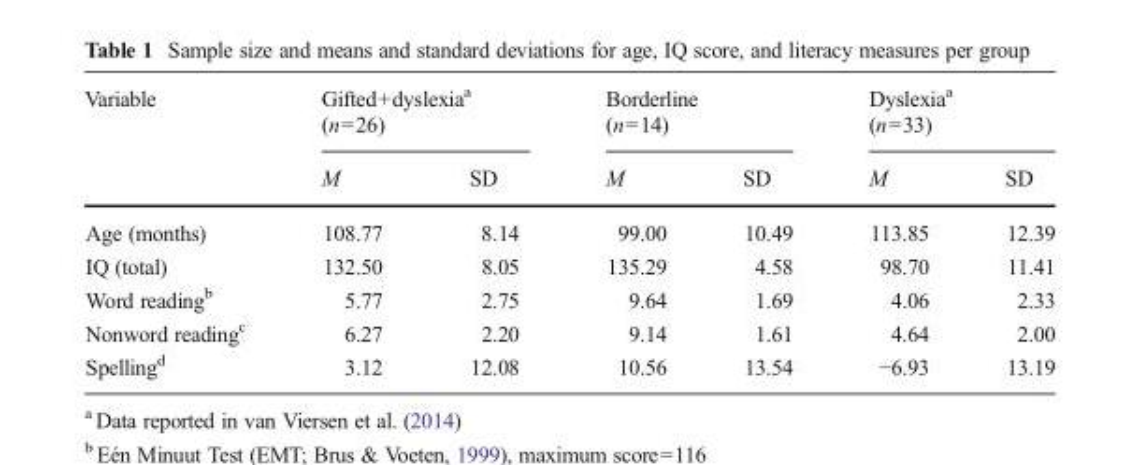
<table><thead><tr><td rowspan="2">Variable</td><td colspan="2">Gifted+dyslexia<sup>a</sup> (n=26)</td><td colspan="2">Borderline (n=14)</td><td colspan="2">Dyslexia<sup>a</sup> (n=33)</td></tr><tr><td>M</td><td>SD</td><td>M</td><td>SD</td><td>M</td><td>SD</td></tr></thead><tbody><tr><td>Age (months)</td><td>108.77</td><td>8.14</td><td>99.00</td><td>10.49</td><td>113.85</td><td>12.39</td></tr><tr><td>IQ (total)</td><td>132.50</td><td>8.05</td><td>135.29</td><td>4.58</td><td>98.70</td><td>11.41</td></tr><tr><td>Word reading<sup>b</sup></td><td>5.77</td><td>2.75</td><td>9.64</td><td>1.69</td><td>4.06</td><td>2.33</td></tr><tr><td>Nonword reading<sup>c</sup></td><td>6.27</td><td>2.20</td><td>9.14</td><td>1.61</td><td>4.64</td><td>2.00</td></tr><tr><td>Spelling<sup>d</sup></td><td>3.12</td><td>12.08</td><td>10.56</td><td>13.54</td><td>−6.93</td><td>13.19</td></tr></tbody></table>